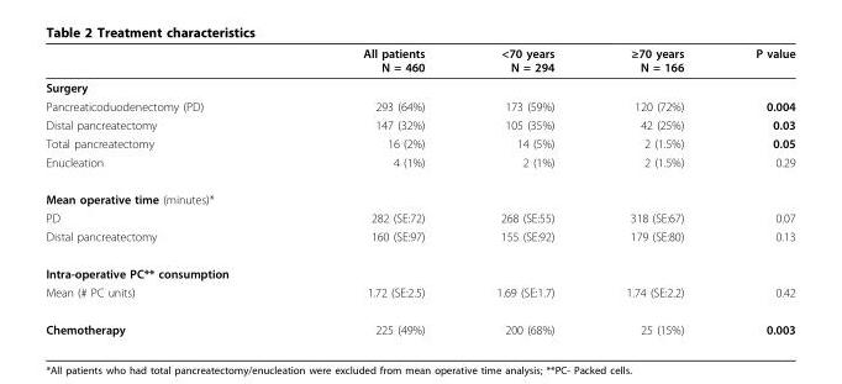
<table><thead><tr><td></td><td>All patients N = 460</td><td>&lt;70 years N = 294</td><td>≥70 years N = 166</td><td>P value</td></tr></thead><tbody><tr><td colspan="5">Surgery</td></tr><tr><td>Pancreaticoduodenectomy (PD)</td><td>293 (64%)</td><td>173 (59%)</td><td>120 (72%)</td><td>0.004</td></tr><tr><td>Distal pancreatectomy</td><td>147 (32%)</td><td>105 (35%)</td><td>42 (25%)</td><td>0.03</td></tr><tr><td>Total pancreatectomy</td><td>16 (2%)</td><td>14 (5%)</td><td>2 (1.5%)</td><td>0.05</td></tr><tr><td>Enucleation</td><td>4 (1%)</td><td>2 (1%)</td><td>2 (1.5%)</td><td>0.29</td></tr><tr><td colspan="5">Mean operative time (minutes)*</td></tr><tr><td>PD</td><td>282 (SE:72)</td><td>268 (SE:55)</td><td>318 (SE:67)</td><td>0.07</td></tr><tr><td>Distal pancreatectomy</td><td>160 (SE:97)</td><td>155 (SE:92)</td><td>179 (SE:80)</td><td>0.13</td></tr><tr><td colspan="5">Intra-operative PC** consumption</td></tr><tr><td>Mean (# PC units)</td><td>1.72 (SE:2.5)</td><td>1.69 (SE:1.7)</td><td>1.74 (SE:2.2)</td><td>0.42</td></tr><tr><td>Chemotherapy</td><td>225 (49%)</td><td>200 (68%)</td><td>25 (15%)</td><td>0.003</td></tr></tbody></table>